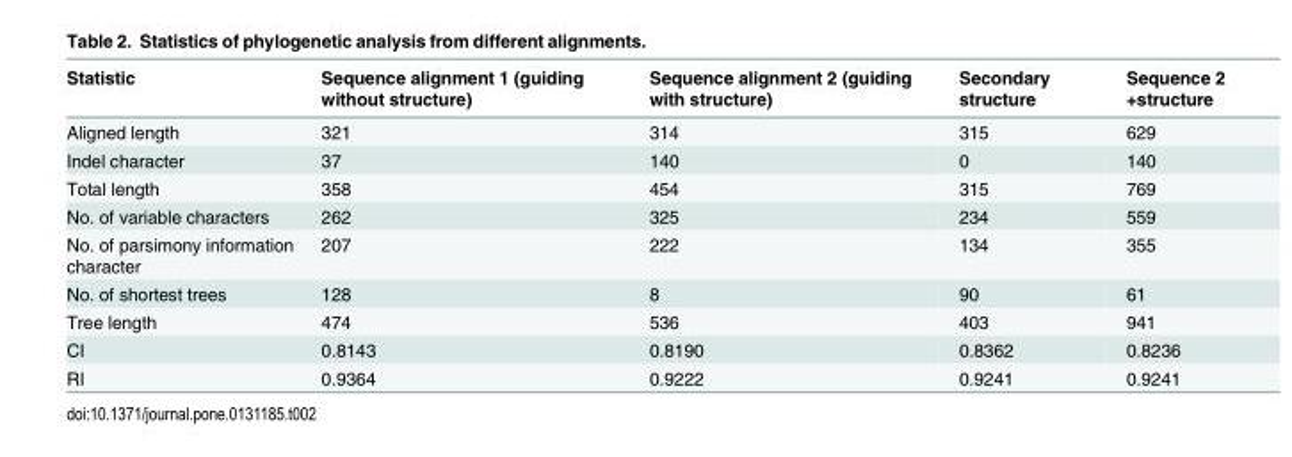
<table><thead><tr><td>Statistic</td><td>Sequence alignment 1 (guiding without structure)</td><td>Sequence alignment 2 (guiding with structure)</td><td>Secondary structure</td><td>Sequence 2 +structure</td></tr></thead><tbody><tr><td>Aligned length</td><td>321</td><td>314</td><td>315</td><td>629</td></tr><tr><td>Indel character</td><td>37</td><td>140</td><td>0</td><td>140</td></tr><tr><td>Total length</td><td>358</td><td>454</td><td>315</td><td>769</td></tr><tr><td>No. of variable characters</td><td>262</td><td>325</td><td>234</td><td>559</td></tr><tr><td>No. of parsimony information character</td><td>207</td><td>222</td><td>134</td><td>355</td></tr><tr><td>No. of shortest trees</td><td>128</td><td>8</td><td>90</td><td>61</td></tr><tr><td>Tree length</td><td>474</td><td>536</td><td>403</td><td>941</td></tr><tr><td>CI</td><td>0.8143</td><td>0.8190</td><td>0.8362</td><td>0.8236</td></tr><tr><td>RI</td><td>0.9364</td><td>0.9222</td><td>0.9241</td><td>0.9241</td></tr></tbody></table>